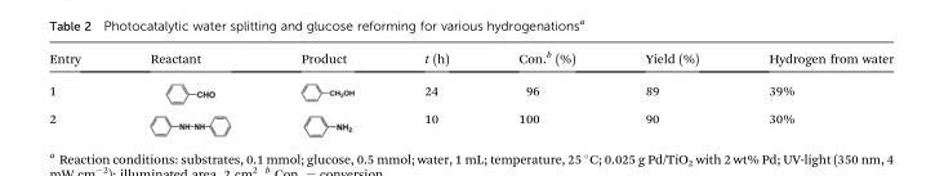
<table><thead><tr><td>Entry</td><td>Reactant</td><td>Product</td><td>t (h)</td><td>Con.<sup>b</sup> (%)</td><td>Yield (%)</td><td>Hydrogen from water</td></tr></thead><tbody><tr><td>1</td><td></td><td></td><td>24</td><td>96</td><td>89</td><td>39%</td></tr><tr><td>2</td><td></td><td></td><td>10</td><td>100</td><td>90</td><td>30%</td></tr></tbody></table>